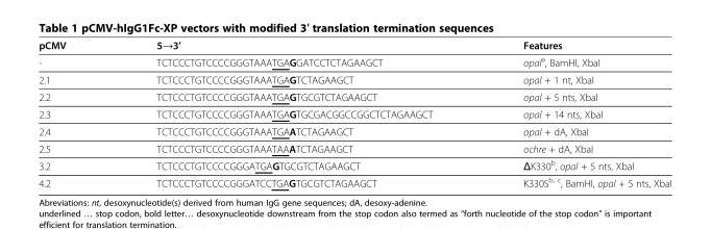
<table><thead><tr><td>pCMV</td><td>5→3’</td><td>Features</td></tr></thead><tbody><tr><td>-</td><td>TCTCCCTGTCCCCGGGTAAATGAGGATCCTCTAGAAGCT</td><td>opal<sup>a</sup>, BamHI, XbaI</td></tr><tr><td>2.1</td><td>TCTCCCTGTCCCCGGGTAAATGAGTCTAGAAGCT</td><td>opal + 1 nt, XbaI</td></tr><tr><td>2.2</td><td>TCTCCCTGTCCCCGGGTAAATGAGTGCGTCTAGAAGCT</td><td>opal + 5 nts, XbaI</td></tr><tr><td>2.3</td><td>TCTCCCTGTCCCCGGGTAAATGAGTGCGACGGCCGGCTCTAGAAGCT</td><td>opal + 14 nts, XbaI</td></tr><tr><td>2.4</td><td>TCTCCCTGTCCCCGGGTAAATGAATCTAGAAGCT</td><td>opal + dA, XbaI</td></tr><tr><td>2.5</td><td>TCTCCCTGTCCCCGGGTAAATAAATCTAGAAGCT</td><td>ochre + dA, XbaI</td></tr><tr><td>3.2</td><td>TCTCCCTGTCCCCGGGATGAGTGCGTCTAGAAGCT</td><td>ΔK330<sup>b</sup>, opal + 5 nts, XbaI</td></tr><tr><td>4.2</td><td>TCTCCCTGTCCCCGGGATCCTGAGTGCGTCTAGAAGCT</td><td>K330S<sup>b, c</sup>, BamHI, opal + 5 nts, XbaI</td></tr></tbody></table>